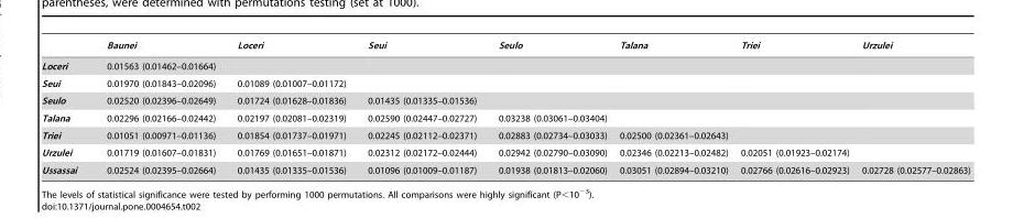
<table><thead><tr><td></td><td>Baunei</td><td>Loceri</td><td>Seui</td><td>Seulo</td><td>Talana</td><td>Triei</td><td>Urzulei</td></tr></thead><tbody><tr><td>Loceri</td><td>0.01563 (0.01462–0.01664)</td><td></td><td></td><td></td><td></td><td></td><td></td></tr><tr><td>Seui</td><td>0.01970 (0.01843–0.02096)</td><td>0.01089 (0.01007–0.01172)</td><td></td><td></td><td></td><td></td><td></td></tr><tr><td>Seulo</td><td>0.02520 (0.02396–0.02649)</td><td>0.01724 (0.01628–0.01836)</td><td>0.01435 (0.01335–0.01536)</td><td></td><td></td><td></td><td></td></tr><tr><td>Talana</td><td>0.02296 (0.02166–0.02442)</td><td>0.02197 (0.02081–0.02319)</td><td>0.02590 (0.02447–0.02727)</td><td>0.03238 (0.03061–0.03404)</td><td></td><td></td><td></td></tr><tr><td>Triei</td><td>0.01051 (0.00971–0.01136)</td><td>0.01854 (0.01737–0.01971)</td><td>0.02245 (0.02112–0.02371)</td><td>0.02883 (0.02734–0.03033)</td><td>0.02500 (0.02361–0.02643)</td><td></td><td></td></tr><tr><td>Urzulei</td><td>0.01719 (0.01607–0.01831)</td><td>0.01769 (0.01651–0.01871)</td><td>0.02312 (0.02172–0.02444)</td><td>0.02942 (0.02790–0.03090)</td><td>0.02346 (0.02213–0.02482)</td><td>0.02051 (0.01923–0.02174)</td><td></td></tr><tr><td>Ussassai</td><td>0.02524 (0.02395–0.02664)</td><td>0.01435 (0.01335–0.01536)</td><td>0.01096 (0.01009–0.01187)</td><td>0.01938 (0.01813–0.02060)</td><td>0.03051 (0.02894–0.03210)</td><td>0.02766 (0.02616–0.02923)</td><td>0.02728 (0.02577–0.02863)</td></tr></tbody></table>